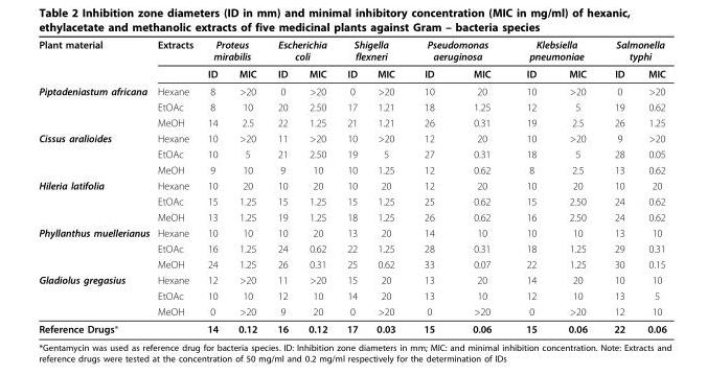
<table><thead><tr><td rowspan="17">Plant material Piptadeniastum africana Cissus aralioides Hileria latifolia Phyllanthus muellerianus Gladiolus gregasius</td><td rowspan="17">Extracts Hexane EtOAc MeOH Hexane EtOAc MeOH Hexane EtOAc MeOH Hexane EtOAc MeOH Hexane EtOAc MeOH</td><td colspan="2">Proteus mirabilis</td><td colspan="2">Escherichia coli</td><td colspan="2">Shigella flexneri</td><td colspan="2">Pseudomonas aeruginosa</td><td colspan="2">Klebsiella pneumoniae</td><td colspan="2">Salmonella typhi</td></tr><tr><td rowspan="16">ID 8 8 14 10 10 9 10 15 13 10 16 24 12 10 0</td><td rowspan="16">MIC &gt;20 10 2.5 &gt;20 5 10 20 1.25 1.25 10 1.25 1.25 &gt;20 10 &gt;20</td><td rowspan="16">ID 0 20 22 11 21 9 10 15 19 10 24 26 11 12 9</td><td rowspan="16">MIC &gt;20 2.50 1.25 &gt;20 2.50 10 20 1.25 1.25 20 0.62 0.31 &gt;20 10 20</td><td rowspan="16">ID 0 17 21 10 19 10 10 15 18 13 22 25 15 14 0</td><td rowspan="16">MIC &gt;20 1.21 1.21 &gt;20 5 1.25 20 1.25 1.25 20 1.25 0.62 20 20 &gt;20</td><td rowspan="16">ID 10 18 26 12 27 12 12 25 26 14 28 33 13 13 0</td><td rowspan="16">MIC 20 1.25 0.31 20 0.31 0.62 20 0.62 0.62 10 0.31 0.07 20 10 &gt;20</td><td rowspan="16">ID 10 12 19 10 18 8 10 15 16 10 18 22 14 12 0</td><td rowspan="16">MIC &gt;20 5 2.5 &gt;20 5 2.5 20 2.50 2.50 10 1.25 1.25 20 10 &gt;20</td><td rowspan="16">ID 0 19 26 9 28 13 10 24 24 13 29 30 10 13 12</td><td rowspan="16">MIC &gt;20 0.62 1.25 &gt;20 0.05 0.62 20 0.62 0.62 10 0.31 0.15 10 5 10</td></tr><tr></tr><tr></tr><tr></tr><tr></tr><tr></tr><tr></tr><tr></tr><tr></tr><tr></tr><tr></tr><tr></tr><tr></tr><tr></tr><tr></tr><tr></tr></thead><tbody><tr><td>Reference Drugs*</td><td></td><td>14</td><td>0.12</td><td>16</td><td>0.12</td><td>17</td><td>0.03</td><td>15</td><td>0.06</td><td>15</td><td>0.06</td><td>22</td><td>0.06</td></tr></tbody></table>